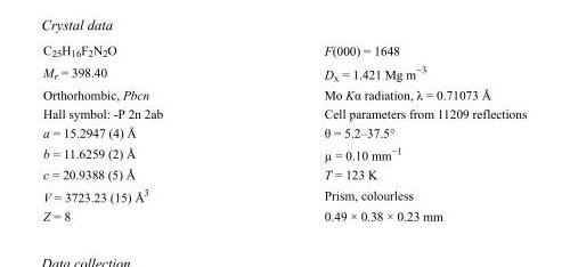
<table><tbody><tr><td>C<sub>25</sub>H<sub>16</sub>F<sub>2</sub>N<sub>2</sub>O</td><td>F(000) = 1648</td></tr><tr><td>M<sub>r</sub> = 398.40</td><td>D<sub>x</sub> = 1.421 Mg m<sup>−3</sup></td></tr><tr><td>Orthorhombic, Pbcn</td><td>Mo Kα radiation, λ = 0.71073 Å</td></tr><tr><td>Hall symbol: -P 2n 2ab</td><td>Cell parameters from 11209 reflections</td></tr><tr><td>a = 15.2947 (4) Å</td><td>θ = 5.2–37.5°</td></tr><tr><td>b = 11.6259 (2) Å</td><td>µ = 0.10 mm<sup>−1</sup></td></tr><tr><td>c = 20.9388 (5) Å</td><td>T = 123 K</td></tr><tr><td>V = 3723.23 (15) Å<sup>3</sup></td><td>Prism, colourless</td></tr><tr><td>Z = 8</td><td>0.49 × 0.38 × 0.23 mm</td></tr></tbody></table>